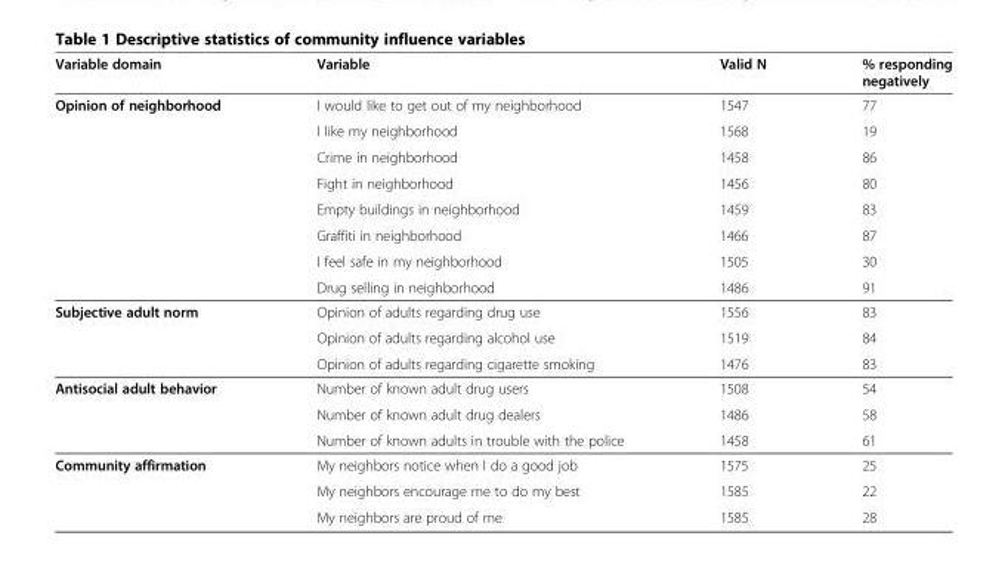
<table><thead><tr><td>Variable domain</td><td>Variable</td><td>Valid N</td><td>% responding negatively</td></tr></thead><tbody><tr><td rowspan="8">Opinion of neighborhood</td><td>I would like to get out of my neighborhood</td><td>1547</td><td>77</td></tr><tr><td>I like my neighborhood</td><td>1568</td><td>19</td></tr><tr><td>Crime in neighborhood</td><td>1458</td><td>86</td></tr><tr><td>Fight in neighborhood</td><td>1456</td><td>80</td></tr><tr><td>Empty buildings in neighborhood</td><td>1459</td><td>83</td></tr><tr><td>Graffiti in neighborhood</td><td>1466</td><td>87</td></tr><tr><td>I feel safe in my neighborhood</td><td>1505</td><td>30</td></tr><tr><td>Drug selling in neighborhood</td><td>1486</td><td>91</td></tr><tr><td rowspan="3">Subjective adult norm</td><td>Opinion of adults regarding drug use</td><td>1556</td><td>83</td></tr><tr><td>Opinion of adults regarding alcohol use</td><td>1519</td><td>84</td></tr><tr><td>Opinion of adults regarding cigarette smoking</td><td>1476</td><td>83</td></tr><tr><td rowspan="3">Antisocial adult behavior</td><td>Number of known adult drug users</td><td>1508</td><td>54</td></tr><tr><td>Number of known adult drug dealers</td><td>1486</td><td>58</td></tr><tr><td>Number of known adults in trouble with the police</td><td>1458</td><td>61</td></tr><tr><td rowspan="3">Community affirmation</td><td>My neighbors notice when I do a good job</td><td>1575</td><td>25</td></tr><tr><td>My neighbors encourage me to do my best</td><td>1585</td><td>22</td></tr><tr><td>My neighbors are proud of me</td><td>1585</td><td>28</td></tr></tbody></table>